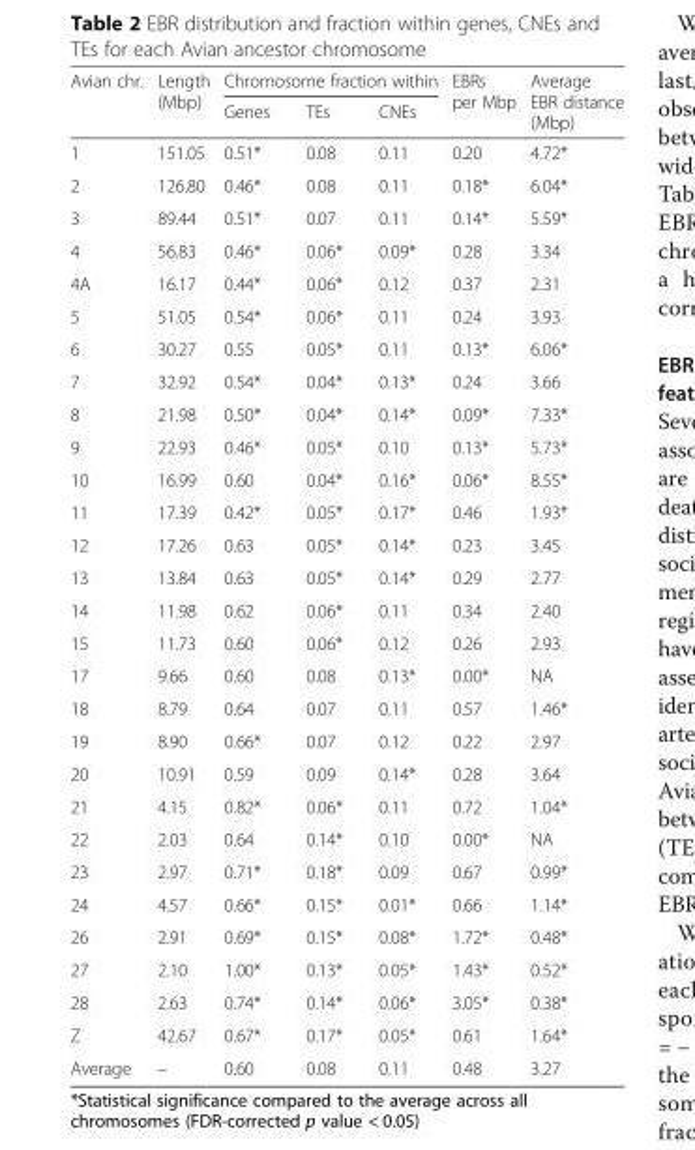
<table><thead><tr><td rowspan="2">Avian chr.</td><td rowspan="2">Length (Mbp)</td><td colspan="3">Chromosome fraction within</td><td rowspan="2">EBRs per Mbp</td><td rowspan="2">Average EBR distance (Mbp)</td></tr><tr><td>Genes</td><td>TEs</td><td>CNEs</td></tr></thead><tbody><tr><td>1</td><td>151.05</td><td>0.51*</td><td>0.08</td><td>0.11</td><td>0.20</td><td>4.72*</td></tr><tr><td>2</td><td>126.80</td><td>0.46*</td><td>0.08</td><td>0.11</td><td>0.18*</td><td>6.04*</td></tr><tr><td>3</td><td>89.44</td><td>0.51*</td><td>0.07</td><td>0.11</td><td>0.14*</td><td>5.59*</td></tr><tr><td>4</td><td>56.83</td><td>0.46*</td><td>0.06*</td><td>0.09*</td><td>0.28</td><td>3.34</td></tr><tr><td>4A</td><td>16.17</td><td>0.44*</td><td>0.06*</td><td>0.12</td><td>0.37</td><td>2.31</td></tr><tr><td>5</td><td>51.05</td><td>0.54*</td><td>0.06*</td><td>0.11</td><td>0.24</td><td>3.93</td></tr><tr><td>6</td><td>30.27</td><td>0.55</td><td>0.05*</td><td>0.11</td><td>0.13*</td><td>6.06*</td></tr><tr><td>7</td><td>32.92</td><td>0.54*</td><td>0.04*</td><td>0.13*</td><td>0.24</td><td>3.66</td></tr><tr><td>8</td><td>21.98</td><td>0.50*</td><td>0.04*</td><td>0.14*</td><td>0.09*</td><td>7.33*</td></tr><tr><td>9</td><td>22.93</td><td>0.46*</td><td>0.05*</td><td>0.10</td><td>0.13*</td><td>5.73*</td></tr><tr><td>10</td><td>16.99</td><td>0.60</td><td>0.04*</td><td>0.16*</td><td>0.06*</td><td>8.55*</td></tr><tr><td>11</td><td>17.39</td><td>0.42*</td><td>0.05*</td><td>0.17*</td><td>0.46</td><td>1.93*</td></tr><tr><td>12</td><td>17.26</td><td>0.63</td><td>0.05*</td><td>0.14*</td><td>0.23</td><td>3.45</td></tr><tr><td>13</td><td>13.84</td><td>0.63</td><td>0.05*</td><td>0.14*</td><td>0.29</td><td>2.77</td></tr><tr><td>14</td><td>11.98</td><td>0.62</td><td>0.06*</td><td>0.11</td><td>0.34</td><td>2.40</td></tr><tr><td>15</td><td>11.73</td><td>0.60</td><td>0.06*</td><td>0.12</td><td>0.26</td><td>2.93</td></tr><tr><td>17</td><td>9.66</td><td>0.60</td><td>0.08</td><td>0.13*</td><td>0.00*</td><td>NA</td></tr><tr><td>18</td><td>8.79</td><td>0.64</td><td>0.07</td><td>0.11</td><td>0.57</td><td>1.46*</td></tr><tr><td>19</td><td>8.90</td><td>0.66*</td><td>0.07</td><td>0.12</td><td>0.22</td><td>2.97</td></tr><tr><td>20</td><td>10.91</td><td>0.59</td><td>0.09</td><td>0.14*</td><td>0.28</td><td>3.64</td></tr><tr><td>21</td><td>4.15</td><td>0.82*</td><td>0.06*</td><td>0.11</td><td>0.72</td><td>1.04*</td></tr><tr><td>22</td><td>2.03</td><td>0.64</td><td>0.14*</td><td>0.10</td><td>0.00*</td><td>NA</td></tr><tr><td>23</td><td>2.97</td><td>0.71*</td><td>0.18*</td><td>0.09</td><td>0.67</td><td>0.99*</td></tr><tr><td>24</td><td>4.57</td><td>0.66*</td><td>0.15*</td><td>0.01*</td><td>0.66</td><td>1.14*</td></tr><tr><td>26</td><td>2.91</td><td>0.69*</td><td>0.15*</td><td>0.08*</td><td>1.72*</td><td>0.48*</td></tr><tr><td>27</td><td>2.10</td><td>1.00*</td><td>0.13*</td><td>0.05*</td><td>1.43*</td><td>0.52*</td></tr><tr><td>28</td><td>2.63</td><td>0.74*</td><td>0.14*</td><td>0.06*</td><td>3.05*</td><td>0.38*</td></tr><tr><td>Z</td><td>42.67</td><td>0.67*</td><td>0.17*</td><td>0.05*</td><td>0.61</td><td>1.64*</td></tr><tr><td>Average</td><td>–</td><td>0.60</td><td>0.08</td><td>0.11</td><td>0.48</td><td>3.27</td></tr></tbody></table>